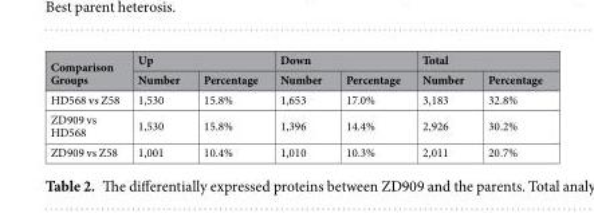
<table><thead><tr><td rowspan="2">Comparison Groups</td><td colspan="2">Up</td><td colspan="2">Down</td><td colspan="2">Total</td></tr><tr><td>Number</td><td>Percentage</td><td>Number</td><td>Percentage</td><td>Number</td><td>Percentage</td></tr></thead><tbody><tr><td>HD568 vs Z58</td><td>1,530</td><td>15.8%</td><td>1,653</td><td>17.0%</td><td>3,183</td><td>32.8%</td></tr><tr><td>ZD909 vs HD568</td><td>1,530</td><td>15.8%</td><td>1,396</td><td>14.4%</td><td>2,926</td><td>30.2%</td></tr><tr><td>ZD909 vs Z58</td><td>1,001</td><td>10.4%</td><td>1,010</td><td>10.3%</td><td>2,011</td><td>20.7%</td></tr></tbody></table>